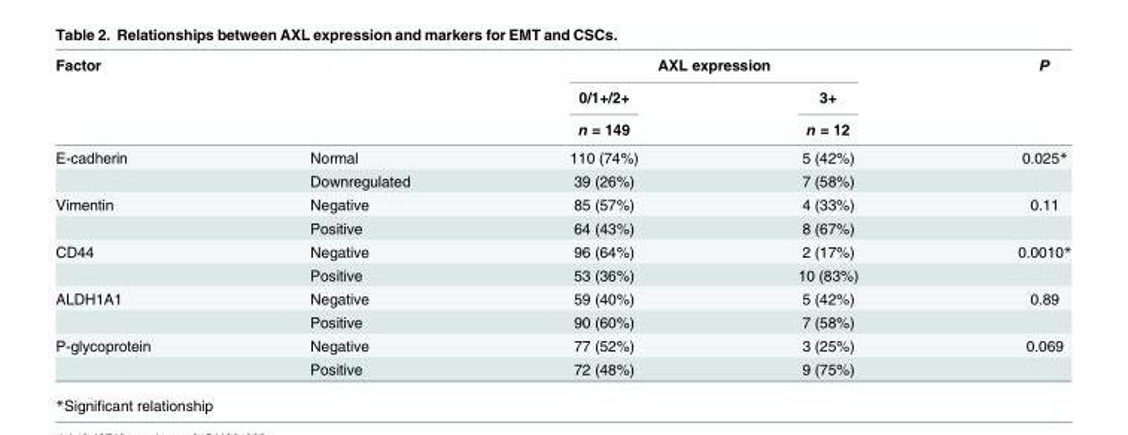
<table><thead><tr><td rowspan="3">Factor</td><td rowspan="3"></td><td colspan="2">AXL expression</td><td rowspan="3">P</td></tr><tr><td rowspan="2">0/1+/2+ n = 149</td><td rowspan="2">3+ n = 12</td></tr><tr></tr></thead><tbody><tr><td rowspan="2">E-cadherin</td><td>Normal</td><td>110 (74%)</td><td>5 (42%)</td><td>0.025*</td></tr><tr><td>Downregulated</td><td>39 (26%)</td><td>7 (58%)</td><td></td></tr><tr><td rowspan="2">Vimentin</td><td>Negative</td><td>85 (57%)</td><td>4 (33%)</td><td>0.11</td></tr><tr><td>Positive</td><td>64 (43%)</td><td>8 (67%)</td><td></td></tr><tr><td rowspan="2">CD44</td><td>Negative</td><td>96 (64%)</td><td>2 (17%)</td><td>0.0010*</td></tr><tr><td>Positive</td><td>53 (36%)</td><td>10 (83%)</td><td></td></tr><tr><td rowspan="2">ALDH1A1</td><td>Negative</td><td>59 (40%)</td><td>5 (42%)</td><td>0.89</td></tr><tr><td>Positive</td><td>90 (60%)</td><td>7 (58%)</td><td></td></tr><tr><td rowspan="2">P-glycoprotein</td><td>Negative</td><td>77 (52%)</td><td>3 (25%)</td><td>0.069</td></tr><tr><td>Positive</td><td>72 (48%)</td><td>9 (75%)</td><td></td></tr></tbody></table>